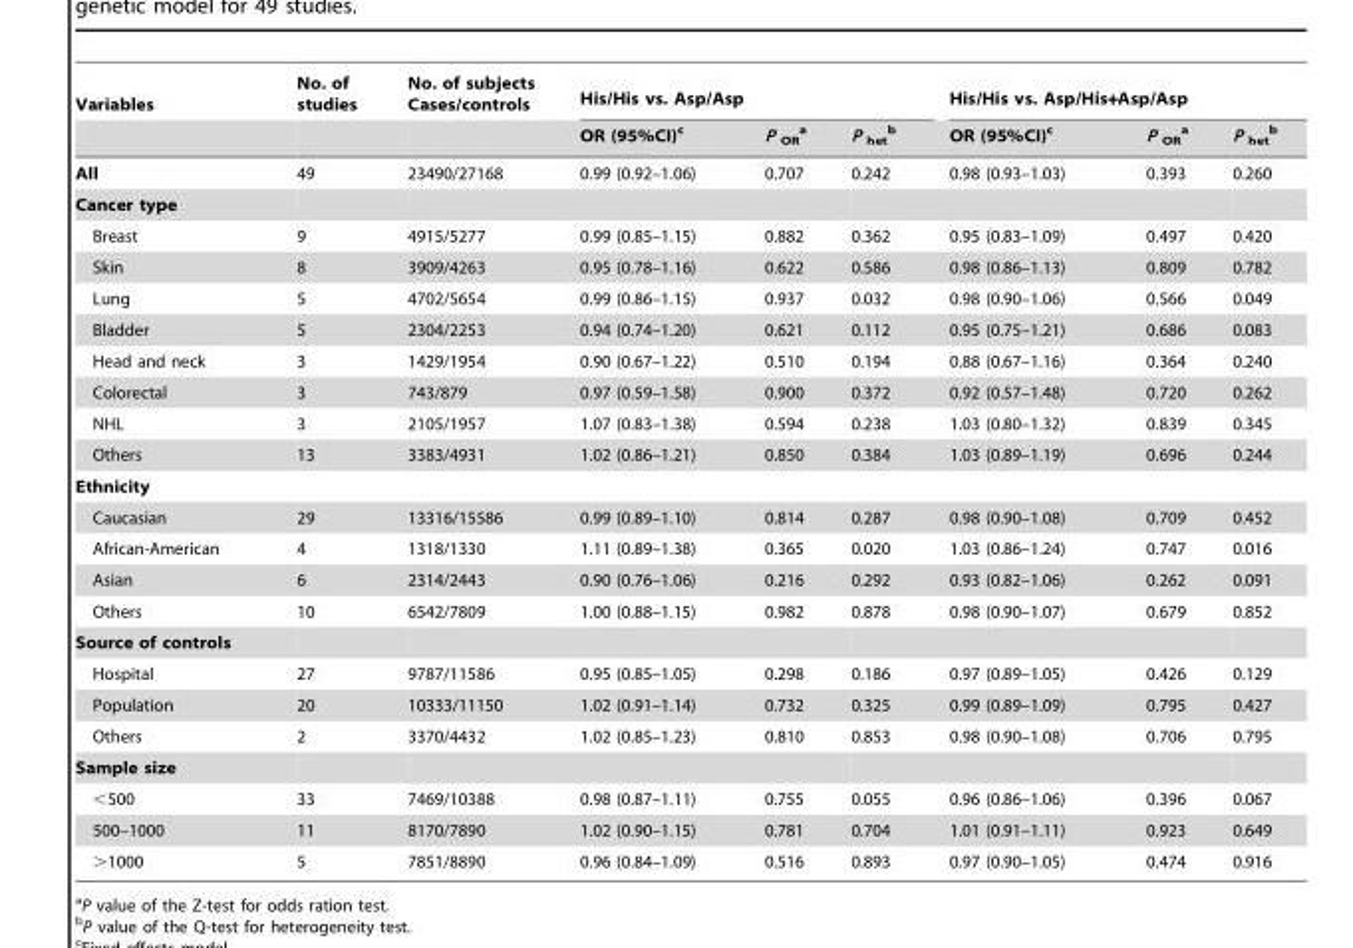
<table><thead><tr><td rowspan="2">Variables</td><td rowspan="2">No. of studies</td><td rowspan="2">No. of subjects Cases/controls</td><td colspan="3">His/His vs. Asp/Asp</td><td colspan="3">His/His vs. Asp/His+Asp/Asp</td></tr><tr><td>OR (95%CI)<sup>c</sup></td><td>P <sub>OR</sub> a</td><td>P <sub>het</sub> b</td><td>OR (95%CI)<sup>c</sup></td><td>P <sub>OR</sub> a</td><td>P <sub>het</sub> b</td></tr></thead><tbody><tr><td>All</td><td>49</td><td>23490/27168</td><td>0.99 (0.92–1.06)</td><td>0.707</td><td>0.242</td><td>0.98 (0.93–1.03)</td><td>0.393</td><td>0.260</td></tr><tr><td colspan="9">Cancer type</td></tr><tr><td>Breast</td><td>9</td><td>4915/5277</td><td>0.99 (0.85–1.15)</td><td>0.882</td><td>0.362</td><td>0.95 (0.83–1.09)</td><td>0.497</td><td>0.420</td></tr><tr><td>Skin</td><td>8</td><td>3909/4263</td><td>0.95 (0.78–1.16)</td><td>0.622</td><td>0.586</td><td>0.98 (0.86–1.13)</td><td>0.809</td><td>0.782</td></tr><tr><td>Lung</td><td>5</td><td>4702/5654</td><td>0.99 (0.86–1.15)</td><td>0.937</td><td>0.032</td><td>0.98 (0.90–1.06)</td><td>0.566</td><td>0.049</td></tr><tr><td>Bladder</td><td>5</td><td>2304/2253</td><td>0.94 (0.74–1.20)</td><td>0.621</td><td>0.112</td><td>0.95 (0.75–1.21)</td><td>0.686</td><td>0.083</td></tr><tr><td>Head and neck</td><td>3</td><td>1429/1954</td><td>0.90 (0.67–1.22)</td><td>0.510</td><td>0.194</td><td>0.88 (0.67–1.16)</td><td>0.364</td><td>0.240</td></tr><tr><td>Colorectal</td><td>3</td><td>743/879</td><td>0.97 (0.59–1.58)</td><td>0.900</td><td>0.372</td><td>0.92 (0.57–1.48)</td><td>0.720</td><td>0.262</td></tr><tr><td>NHL</td><td>3</td><td>2105/1957</td><td>1.07 (0.83–1.38)</td><td>0.594</td><td>0.238</td><td>1.03 (0.80–1.32)</td><td>0.839</td><td>0.345</td></tr><tr><td>Others</td><td>13</td><td>3383/4931</td><td>1.02 (0.86–1.21)</td><td>0.850</td><td>0.384</td><td>1.03 (0.89–1.19)</td><td>0.696</td><td>0.244</td></tr><tr><td colspan="9">Ethnicity</td></tr><tr><td>Caucasian</td><td>29</td><td>13316/15586</td><td>0.99 (0.89–1.10)</td><td>0.814</td><td>0.287</td><td>0.98 (0.90–1.08)</td><td>0.709</td><td>0.452</td></tr><tr><td>African-American</td><td>4</td><td>1318/1330</td><td>1.11 (0.89–1.38)</td><td>0.365</td><td>0.020</td><td>1.03 (0.86–1.24)</td><td>0.747</td><td>0.016</td></tr><tr><td>Asian</td><td>6</td><td>2314/2443</td><td>0.90 (0.76–1.06)</td><td>0.216</td><td>0.292</td><td>0.93 (0.82–1.06)</td><td>0.262</td><td>0.091</td></tr><tr><td>Others</td><td>10</td><td>6542/7809</td><td>1.00 (0.88–1.15)</td><td>0.982</td><td>0.878</td><td>0.98 (0.90–1.07)</td><td>0.679</td><td>0.852</td></tr><tr><td colspan="9">Source of controls</td></tr><tr><td>Hospital</td><td>27</td><td>9787/11586</td><td>0.95 (0.85–1.05)</td><td>0.298</td><td>0.186</td><td>0.97 (0.89–1.05)</td><td>0.426</td><td>0.129</td></tr><tr><td>Population</td><td>20</td><td>10333/11150</td><td>1.02 (0.91–1.14)</td><td>0.732</td><td>0.325</td><td>0.99 (0.89–1.09)</td><td>0.795</td><td>0.427</td></tr><tr><td>Others</td><td>2</td><td>3370/4432</td><td>1.02 (0.85–1.23)</td><td>0.810</td><td>0.853</td><td>0.98 (0.90–1.08)</td><td>0.706</td><td>0.795</td></tr><tr><td colspan="9">Sample size</td></tr><tr><td>&lt;500</td><td>33</td><td>7469/10388</td><td>0.98 (0.87–1.11)</td><td>0.755</td><td>0.055</td><td>0.96 (0.86–1.06)</td><td>0.396</td><td>0.067</td></tr><tr><td>500–1000</td><td>11</td><td>8170/7890</td><td>1.02 (0.90–1.15)</td><td>0.781</td><td>0.704</td><td>1.01 (0.91–1.11)</td><td>0.923</td><td>0.649</td></tr><tr><td>&gt;1000</td><td>5</td><td>7851/8890</td><td>0.96 (0.84–1.09)</td><td>0.516</td><td>0.893</td><td>0.97 (0.90–1.05)</td><td>0.474</td><td>0.916</td></tr></tbody></table>